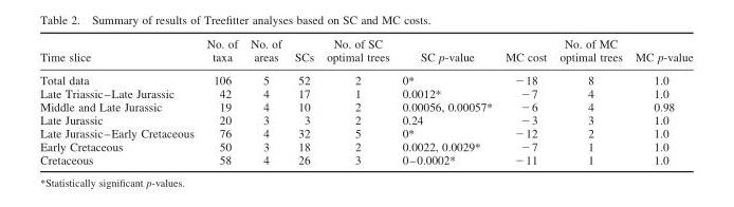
<table><thead><tr><td>Time slice</td><td>No. of taxa</td><td>No. of areas</td><td>SCs</td><td>No. of SC optimal trees</td><td>SC p-value</td><td>MC cost</td><td>No. of MC optimal trees</td><td>MC p-value</td></tr></thead><tbody><tr><td>Total data</td><td>106</td><td>5</td><td>52</td><td>2</td><td>0*</td><td>−18</td><td>8</td><td>1.0</td></tr><tr><td>Late Triassic–Late Jurassic</td><td>42</td><td>4</td><td>17</td><td>1</td><td>0.0012*</td><td>−7</td><td>4</td><td>1.0</td></tr><tr><td>Middle and Late Jurassic</td><td>19</td><td>4</td><td>10</td><td>2</td><td>0.00056, 0.00057*</td><td>−6</td><td>4</td><td>0.98</td></tr><tr><td>Late Jurassic</td><td>20</td><td>3</td><td>3</td><td>2</td><td>0.24</td><td>−3</td><td>3</td><td>1.0</td></tr><tr><td>Late Jurassic–Early Cretaceous</td><td>76</td><td>4</td><td>32</td><td>5</td><td>0*</td><td>−12</td><td>2</td><td>1.0</td></tr><tr><td>Early Cretaceous</td><td>50</td><td>3</td><td>18</td><td>2</td><td>0.0022, 0.0029*</td><td>−7</td><td>1</td><td>1.0</td></tr><tr><td>Cretaceous</td><td>58</td><td>4</td><td>26</td><td>3</td><td>0–0.0002*</td><td>−11</td><td>1</td><td>1.0</td></tr></tbody></table>